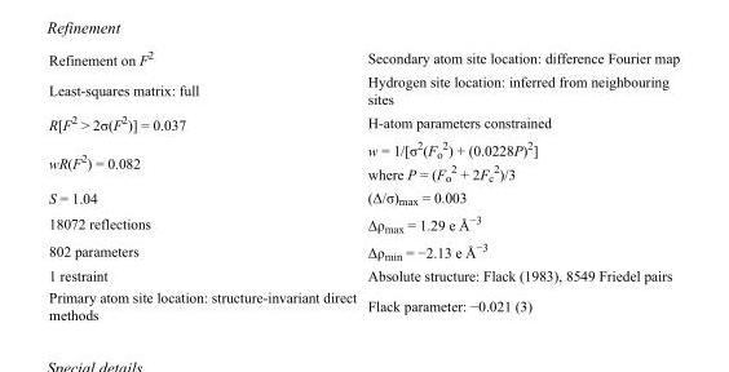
<table><tbody><tr><td>Refinement on F<sup>2</sup></td><td>Secondary atom site location: difference Fourier map</td></tr><tr><td>Least-squares matrix: full</td><td>Hydrogen site location: inferred from neighbouring sites</td></tr><tr><td>R[F<sup>2</sup> &gt; 2σ(F<sup>2</sup>)] = 0.037</td><td>H-atom parameters constrained</td></tr><tr><td>wR(F<sup>2</sup>) = 0.082</td><td>w = 1/[σ<sup>2</sup>(F<sub>o</sub> <sup>2</sup>) + (0.0228P)<sup>2</sup>] where P = (F<sub>o</sub> <sup>2</sup> + 2F<sub>c</sub> <sup>2</sup>)/3</td></tr><tr><td>S = 1.04</td><td>(Δ/σ)<sub>max</sub> = 0.003</td></tr><tr><td>18072 reflections</td><td>Δρ<sub>max</sub> = 1.29 e Å<sup>−3</sup></td></tr><tr><td>802 parameters</td><td>Δρ<sub>min</sub> = −2.13 e Å<sup>−3</sup></td></tr><tr><td>1 restraint</td><td>Absolute structure: Flack (1983), 8549 Friedel pairs</td></tr><tr><td>Primary atom site location: structure-invariant direct methods</td><td>Flack parameter: −0.021 (3)</td></tr></tbody></table>